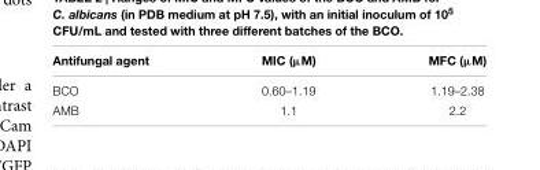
<table><thead><tr><td>Antifungal agent</td><td>MIC (µM)</td><td>MFC (µM)</td></tr></thead><tbody><tr><td>BCO</td><td>0.60–1.19</td><td>1.19–2.38</td></tr><tr><td>AMB</td><td>1.1</td><td>2.2</td></tr></tbody></table>